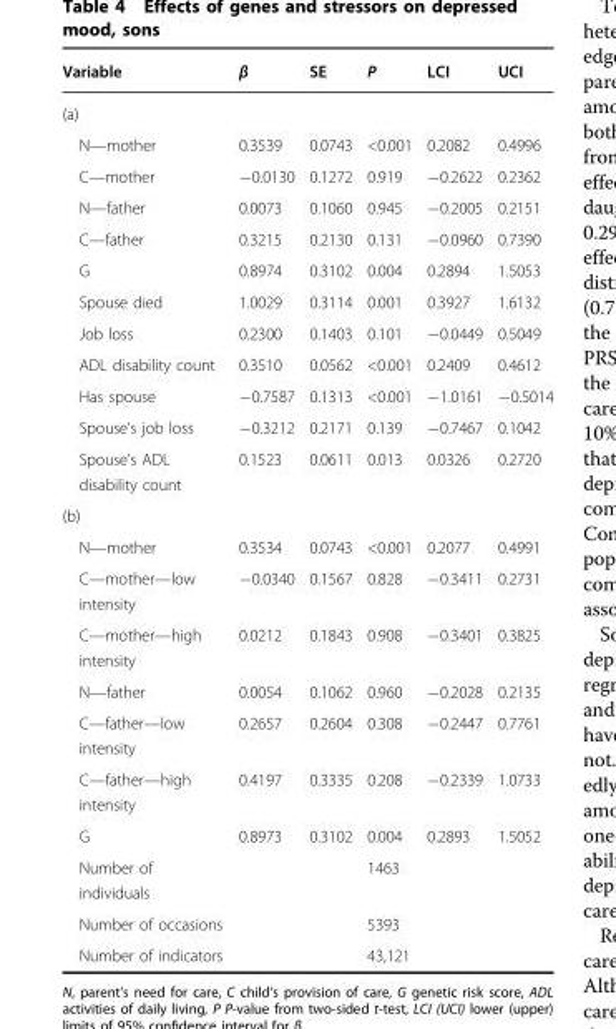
<table><thead><tr><td>Variable</td><td>β</td><td>SE</td><td>P</td><td>LCI</td><td>UCI</td></tr></thead><tbody><tr><td colspan="6">(a)</td></tr><tr><td>N—mother</td><td>0.3539</td><td>0.0743</td><td>&lt;0.001</td><td>0.2082</td><td>0.4996</td></tr><tr><td>C—mother</td><td>−0.0130</td><td>0.1272</td><td>0.919</td><td>−0.2622</td><td>0.2362</td></tr><tr><td>N—father</td><td>0.0073</td><td>0.1060</td><td>0.945</td><td>−0.2005</td><td>0.2151</td></tr><tr><td>C—father</td><td>0.3215</td><td>0.2130</td><td>0.131</td><td>−0.0960</td><td>0.7390</td></tr><tr><td>G</td><td>0.8974</td><td>0.3102</td><td>0.004</td><td>0.2894</td><td>1.5053</td></tr><tr><td>Spouse died</td><td>1.0029</td><td>0.3114</td><td>0.001</td><td>0.3927</td><td>1.6132</td></tr><tr><td>Job loss</td><td>0.2300</td><td>0.1403</td><td>0.101</td><td>−0.0449</td><td>0.5049</td></tr><tr><td>ADL disability count</td><td>0.3510</td><td>0.0562</td><td>&lt;0.001</td><td>0.2409</td><td>0.4612</td></tr><tr><td>Has spouse</td><td>−0.7587</td><td>0.1313</td><td>&lt;0.001</td><td>−1.0161</td><td>−0.5014</td></tr><tr><td>Spouse’s job loss</td><td>−0.3212</td><td>0.2171</td><td>0.139</td><td>−0.7467</td><td>0.1042</td></tr><tr><td>Spouse’s ADL disability count</td><td>0.1523</td><td>0.0611</td><td>0.013</td><td>0.0326</td><td>0.2720</td></tr><tr><td colspan="6">(b)</td></tr><tr><td>N—mother</td><td>0.3534</td><td>0.0743</td><td>&lt;0.001</td><td>0.2077</td><td>0.4991</td></tr><tr><td>C—mother—low intensity</td><td>−0.0340</td><td>0.1567</td><td>0.828</td><td>−0.3411</td><td>0.2731</td></tr><tr><td>C—mother—high intensity</td><td>0.0212</td><td>0.1843</td><td>0.908</td><td>−0.3401</td><td>0.3825</td></tr><tr><td>N—father</td><td>0.0054</td><td>0.1062</td><td>0.960</td><td>−0.2028</td><td>0.2135</td></tr><tr><td>C—father—low intensity</td><td>0.2657</td><td>0.2604</td><td>0.308</td><td>−0.2447</td><td>0.7761</td></tr><tr><td>C—father—high intensity</td><td>0.4197</td><td>0.3335</td><td>0.208</td><td>−0.2339</td><td>1.0733</td></tr><tr><td>G</td><td>0.8973</td><td>0.3102</td><td>0.004</td><td>0.2893</td><td>1.5052</td></tr><tr><td>Number of individuals</td><td></td><td></td><td>1463</td><td></td><td></td></tr><tr><td>Number of occasions</td><td></td><td></td><td>5393</td><td></td><td></td></tr><tr><td>Number of indicators</td><td></td><td></td><td>43,121</td><td></td><td></td></tr></tbody></table>